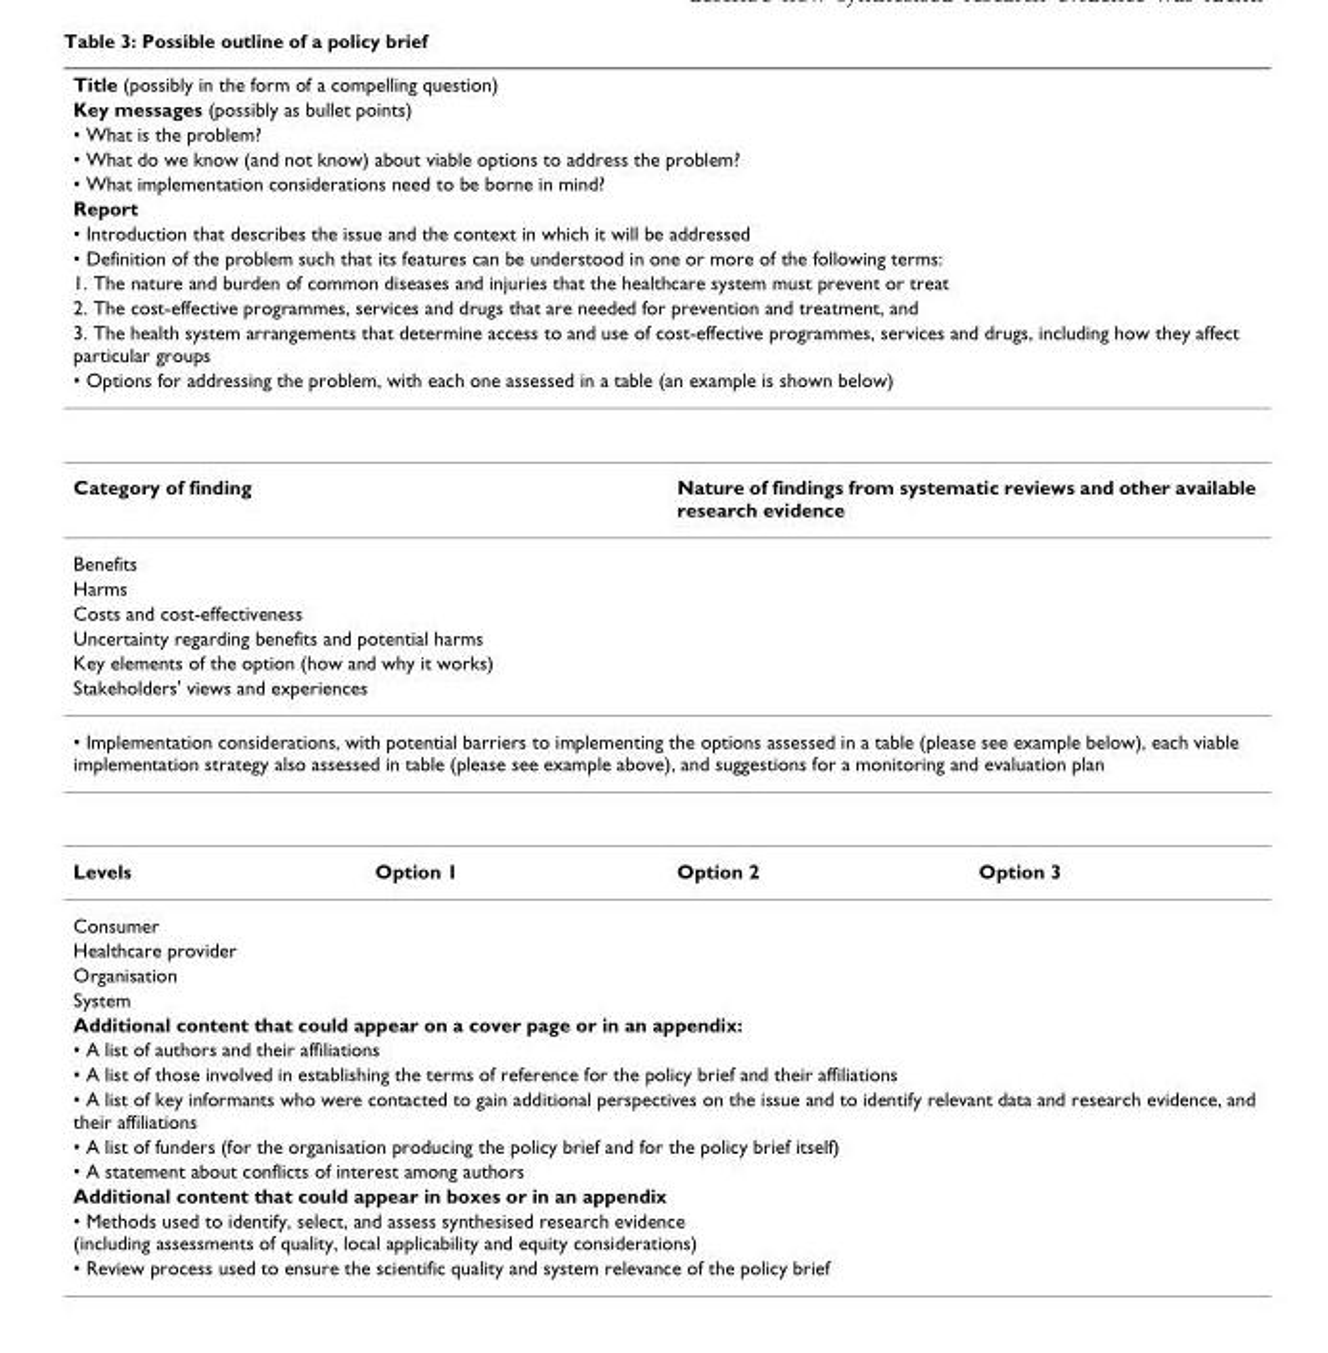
<table><thead><tr><td rowspan="12" colspan="4">Title (possibly in the form of a compelling question) Key messages (possibly as bullet points) • What is the problem? • What do we know (and not know) about viable options to address the problem? • What implementation considerations need to be borne in mind? Report • Introduction that describes the issue and the context in which it will be addressed • Definition of the problem such that its features can be understood in one or more of the following terms: 1. The nature and burden of common diseases and injuries that the healthcare system must prevent or treat 2. The cost-effective programmes, services and drugs that are needed for prevention and treatment, and 3. The health system arrangements that determine access to and use of cost-effective programmes, services and drugs, including how they affect particular groups • Options for addressing the problem, with each one assessed in a table (an example is shown below)</td></tr><tr></tr><tr></tr><tr></tr><tr></tr><tr></tr><tr></tr><tr></tr><tr></tr><tr></tr><tr></tr><tr></tr></thead><tbody><tr><td colspan="2">Category of finding</td><td colspan="2">Nature of findings from systematic reviews and other available research evidence</td></tr><tr><td colspan="4">Benefits</td></tr><tr><td colspan="4">Harms</td></tr><tr><td colspan="4">Costs and cost-effectiveness</td></tr><tr><td colspan="4">Uncertainty regarding benefits and potential harms</td></tr><tr><td colspan="4">Key elements of the option (how and why it works)</td></tr><tr><td colspan="4">Stakeholders&#x27; views and experiences</td></tr><tr><td colspan="4">• Implementation considerations, with potential barriers to implementing the options assessed in a table (please see example below), each viable implementation strategy also assessed in table (please see example above), and suggestions for a monitoring and evaluation plan</td></tr><tr><td>Levels</td><td>Option 1</td><td>Option 2</td><td>Option 3</td></tr><tr><td colspan="4">Consumer</td></tr><tr><td colspan="4">Healthcare provider</td></tr><tr><td colspan="4">Organisation</td></tr><tr><td colspan="4">System</td></tr><tr><td colspan="4">Additional content that could appear on a cover page or in an appendix:</td></tr><tr><td colspan="4">• A list of authors and their affiliations</td></tr><tr><td colspan="4">• A list of those involved in establishing the terms of reference for the policy brief and their affiliations</td></tr><tr><td colspan="4">• A list of key informants who were contacted to gain additional perspectives on the issue and to identify relevant data and research evidence, and their affiliations</td></tr><tr><td colspan="4">• A list of funders (for the organisation producing the policy brief and for the policy brief itself)</td></tr><tr><td colspan="4">• A statement about conflicts of interest among authors</td></tr><tr><td colspan="4">Additional content that could appear in boxes or in an appendix</td></tr><tr><td colspan="4">• Methods used to identify, select, and assess synthesised research evidence (including assessments of quality, local applicability and equity considerations)</td></tr><tr><td colspan="4">• Review process used to ensure the scientific quality and system relevance of the policy brief</td></tr></tbody></table>